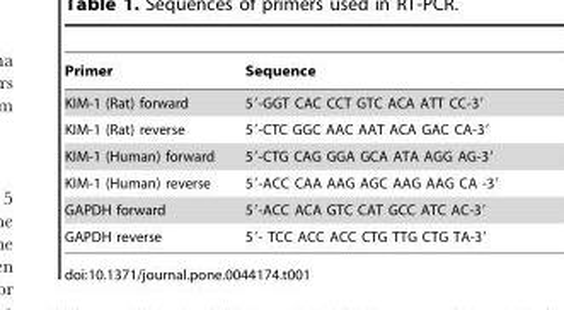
<table><thead><tr><td>Primer</td><td>Sequence</td></tr></thead><tbody><tr><td>KIM-1 (Rat) forward</td><td>5′-GGT CAC CCT GTC ACA ATT CC-3′</td></tr><tr><td>KIM-1 (Rat) reverse</td><td>5′-CTC GGC AAC AAT ACA GAC CA-3′</td></tr><tr><td>KIM-1 (Human) forward</td><td>5′-CTG CAG GGA GCA ATA AGG AG-3′</td></tr><tr><td>KIM-1 (Human) reverse</td><td>5′-ACC CAA AAG AGC AAG AAG CA -3′</td></tr><tr><td>GAPDH forward</td><td>5′-ACC ACA GTC CAT GCC ATC AC-3′</td></tr><tr><td>GAPDH reverse</td><td>5′- TCC ACC ACC CTG TTG CTG TA-3′</td></tr></tbody></table>